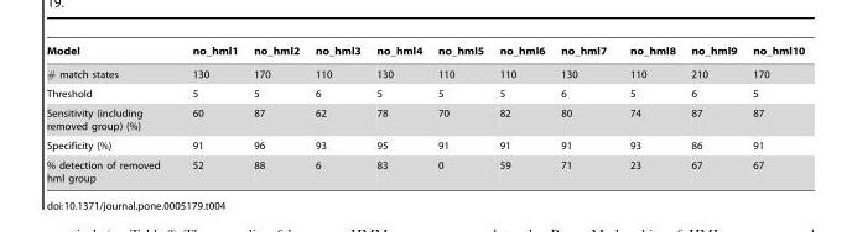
<table><thead><tr><td>Model</td><td>no_hml1</td><td>no_hml2</td><td>no_hml3</td><td>no_hml4</td><td>no_hml5</td><td>no_hml6</td><td>no_hml7</td><td>no_hml8</td><td>no_hml9</td><td>no_hml10</td></tr></thead><tbody><tr><td># match states</td><td>130</td><td>170</td><td>110</td><td>130</td><td>110</td><td>110</td><td>130</td><td>110</td><td>210</td><td>170</td></tr><tr><td>Threshold</td><td>5</td><td>5</td><td>6</td><td>5</td><td>5</td><td>5</td><td>6</td><td>5</td><td>6</td><td>5</td></tr><tr><td>Sensitivity (including removed group) (%)</td><td>60</td><td>87</td><td>62</td><td>78</td><td>70</td><td>82</td><td>80</td><td>74</td><td>87</td><td>87</td></tr><tr><td>Specificity (%)</td><td>91</td><td>96</td><td>93</td><td>95</td><td>91</td><td>91</td><td>91</td><td>93</td><td>86</td><td>91</td></tr><tr><td>% detection of removed hml group</td><td>52</td><td>88</td><td>6</td><td>83</td><td>0</td><td>59</td><td>71</td><td>23</td><td>67</td><td>67</td></tr></tbody></table>